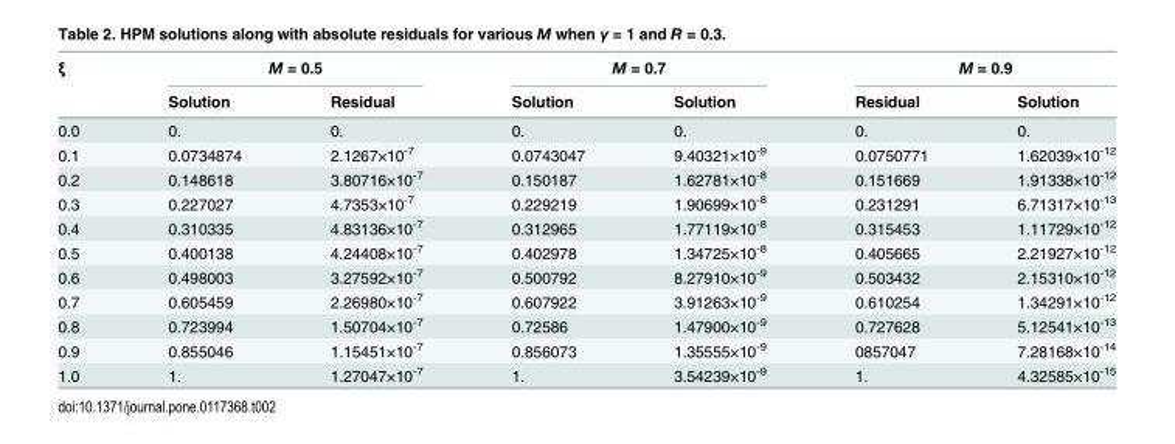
<table><thead><tr><td rowspan="2">ξ</td><td colspan="2">M = 0.5</td><td colspan="2">M = 0.7</td><td colspan="2">M = 0.9</td></tr><tr><td>Solution</td><td>Residual</td><td>Solution</td><td>Solution</td><td>Residual</td><td>Solution</td></tr></thead><tbody><tr><td>0.0</td><td>0.</td><td>0.</td><td>0.</td><td>0.</td><td>0.</td><td>0.</td></tr><tr><td>0.1</td><td>0.0734874</td><td>2.1267×10<sup>-7</sup></td><td>0.0743047</td><td>9.40321×10<sup>-9</sup></td><td>0.0750771</td><td>1.62039×10<sup>-12</sup></td></tr><tr><td>0.2</td><td>0.148618</td><td>3.80716×10<sup>-7</sup></td><td>0.150187</td><td>1.62781×10<sup>-8</sup></td><td>0.151669</td><td>1.91338×10<sup>-12</sup></td></tr><tr><td>0.3</td><td>0.227027</td><td>4.7353×10<sup>-7</sup></td><td>0.229219</td><td>1.90699×10<sup>-8</sup></td><td>0.231291</td><td>6.71317×10<sup>-13</sup></td></tr><tr><td>0.4</td><td>0.310335</td><td>4.83136×10<sup>-7</sup></td><td>0.312965</td><td>1.77119×10<sup>-8</sup></td><td>0.315453</td><td>1.11729×10<sup>-12</sup></td></tr><tr><td>0.5</td><td>0.400138</td><td>4.24408×10<sup>-7</sup></td><td>0.402978</td><td>1.34725×10<sup>-8</sup></td><td>0.405665</td><td>2.21927×10<sup>-12</sup></td></tr><tr><td>0.6</td><td>0.498003</td><td>3.27592×10<sup>-7</sup></td><td>0.500792</td><td>8.27910×10<sup>-9</sup></td><td>0.503432</td><td>2.15310×10<sup>-12</sup></td></tr><tr><td>0.7</td><td>0.605459</td><td>2.26980×10<sup>-7</sup></td><td>0.607922</td><td>3.91263×10<sup>-9</sup></td><td>0.610254</td><td>1.34291×10<sup>-12</sup></td></tr><tr><td>0.8</td><td>0.723994</td><td>1.50704×10<sup>-7</sup></td><td>0.72586</td><td>1.47900×10<sup>-9</sup></td><td>0.727628</td><td>5.12541×10<sup>-13</sup></td></tr><tr><td>0.9</td><td>0.855046</td><td>1.15451×10<sup>-7</sup></td><td>0.856073</td><td>1.35555×10<sup>-9</sup></td><td>0857047</td><td>7.28168×10<sup>-14</sup></td></tr><tr><td>1.0</td><td>1.</td><td>1.27047×10<sup>-7</sup></td><td>1.</td><td>3.54239×10<sup>-9</sup></td><td>1.</td><td>4.32585×10<sup>-15</sup></td></tr></tbody></table>